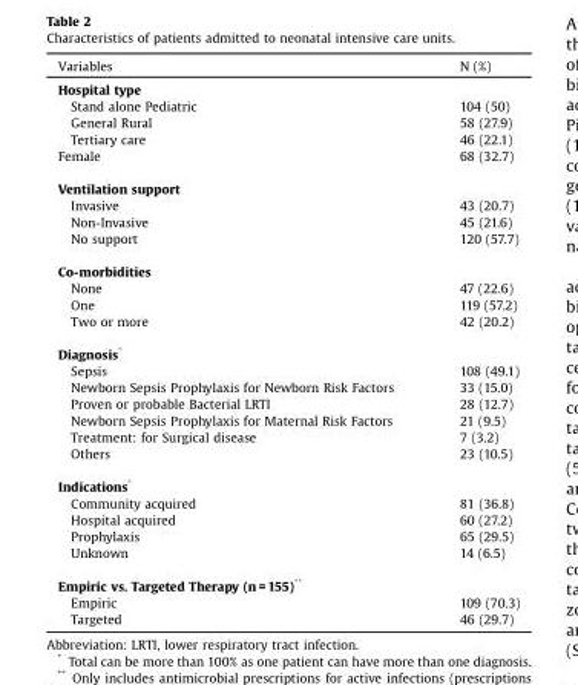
<table><thead><tr><td>Variables</td><td>N (%)</td></tr></thead><tbody><tr><td colspan="2">Hospital type</td></tr><tr><td>Stand alone Pediatric</td><td>104 (50)</td></tr><tr><td>General Rural</td><td>58 (27.9)</td></tr><tr><td>Tertiary care</td><td>46 (22.1)</td></tr><tr><td>Female</td><td>68 (32.7)</td></tr><tr><td colspan="2">Ventilation support</td></tr><tr><td>Invasive</td><td>43 (20.7)</td></tr><tr><td>Non-Invasive</td><td>45 (21.6)</td></tr><tr><td>No support</td><td>120 (57.7)</td></tr><tr><td colspan="2">Co-morbidities</td></tr><tr><td>None</td><td>47 (22.6)</td></tr><tr><td>One</td><td>119 (57.2)</td></tr><tr><td>Two or more</td><td>42 (20.2)</td></tr><tr><td colspan="2">Diagnosis*</td></tr><tr><td>Sepsis</td><td>108 (49.1)</td></tr><tr><td>Newborn Sepsis Prophylaxis for Newborn Risk Factors</td><td>33 (15.0)</td></tr><tr><td>Proven or probable Bacterial LRTI</td><td>28 (12.7)</td></tr><tr><td>Newborn Sepsis Prophylaxis for Maternal Risk Factors</td><td>21 (9.5)</td></tr><tr><td>Treatment: for Surgical disease</td><td>7 (3.2)</td></tr><tr><td>Others</td><td>23 (10.5)</td></tr><tr><td colspan="2">Indications*</td></tr><tr><td>Community acquired</td><td>81 (36.8)</td></tr><tr><td>Hospital acquired</td><td>60 (27.2)</td></tr><tr><td>Prophylaxis</td><td>65 (29.5)</td></tr><tr><td>Unknown</td><td>14 (6.5)</td></tr><tr><td colspan="2">Empiric vs. Targeted Therapy (n = 155)**</td></tr><tr><td>Empiric</td><td>109 (70.3)</td></tr><tr><td>Targeted</td><td>46 (29.7)</td></tr></tbody></table>